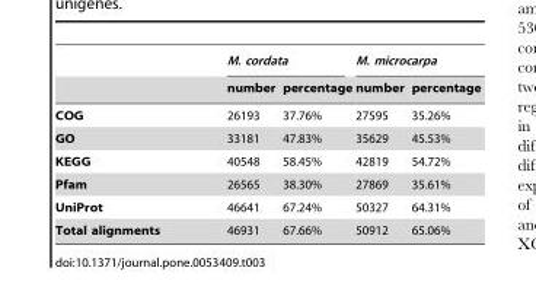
<table><thead><tr><td rowspan="2"></td><td colspan="2">M. cordata</td><td colspan="2">M. microcarpa</td></tr><tr><td>number</td><td>percentage</td><td>number</td><td>percentage</td></tr></thead><tbody><tr><td>COG</td><td>26193</td><td>37.76%</td><td>27595</td><td>35.26%</td></tr><tr><td>GO</td><td>33181</td><td>47.83%</td><td>35629</td><td>45.53%</td></tr><tr><td>KEGG</td><td>40548</td><td>58.45%</td><td>42819</td><td>54.72%</td></tr><tr><td>Pfam</td><td>26565</td><td>38.30%</td><td>27869</td><td>35.61%</td></tr><tr><td>UniProt</td><td>46641</td><td>67.24%</td><td>50327</td><td>64.31%</td></tr><tr><td>Total alignments</td><td>46931</td><td>67.66%</td><td>50912</td><td>65.06%</td></tr></tbody></table>